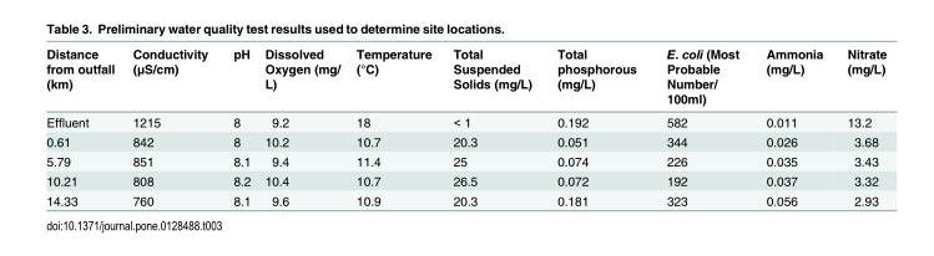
<table><thead><tr><td>Distance from outfall (km)</td><td>Conductivity (μS/cm)</td><td>pH</td><td>Dissolved Oxygen (mg/ L)</td><td>Temperature (°C)</td><td>Total Suspended Solids (mg/L)</td><td>Total phosphorous (mg/L)</td><td>E. coli (Most Probable Number/ 100ml)</td><td>Ammonia (mg/L)</td><td>Nitrate (mg/L)</td></tr></thead><tbody><tr><td>Effluent</td><td>1215</td><td>8</td><td>9.2</td><td>18</td><td>&lt; 1</td><td>0.192</td><td>582</td><td>0.011</td><td>13.2</td></tr><tr><td>0.61</td><td>842</td><td>8</td><td>10.2</td><td>10.7</td><td>20.3</td><td>0.051</td><td>344</td><td>0.026</td><td>3.68</td></tr><tr><td>5.79</td><td>851</td><td>8.1</td><td>9.4</td><td>11.4</td><td>25</td><td>0.074</td><td>226</td><td>0.035</td><td>3.43</td></tr><tr><td>10.21</td><td>808</td><td>8.2</td><td>10.4</td><td>10.7</td><td>26.5</td><td>0.072</td><td>192</td><td>0.037</td><td>3.32</td></tr><tr><td>14.33</td><td>760</td><td>8.1</td><td>9.6</td><td>10.9</td><td>20.3</td><td>0.181</td><td>323</td><td>0.056</td><td>2.93</td></tr></tbody></table>